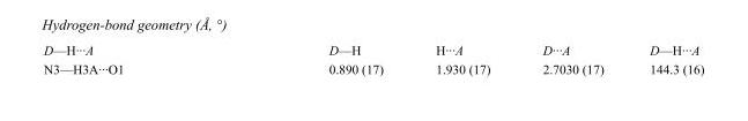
<table><tbody><tr><td>D—H···A</td><td>D—H</td><td>H···A</td><td>D···A</td><td>D—H···A</td></tr><tr><td>N3—H3A···O1</td><td>0.890 (17)</td><td>1.930 (17)</td><td>2.7030 (17)</td><td>144.3 (16)</td></tr></tbody></table>